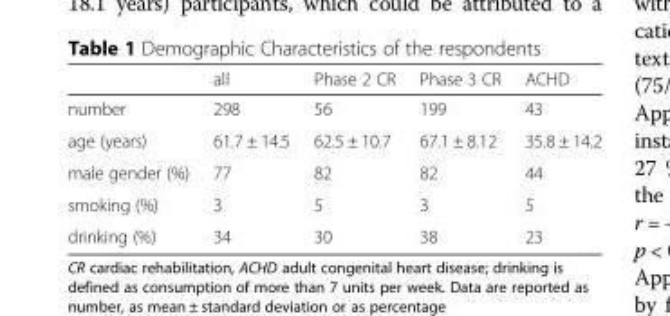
<table><thead><tr><td></td><td>all</td><td>Phase 2 CR</td><td>Phase 3 CR</td><td>ACHD</td></tr></thead><tbody><tr><td>number</td><td>298</td><td>56</td><td>199</td><td>43</td></tr><tr><td>age (years)</td><td>61.7 ± 14.5</td><td>62.5 ± 10.7</td><td>67.1 ± 8.12</td><td>35.8 ± 14.2</td></tr><tr><td>male gender (%)</td><td>77</td><td>82</td><td>82</td><td>44</td></tr><tr><td>smoking (%)</td><td>3</td><td>5</td><td>3</td><td>5</td></tr><tr><td>drinking (%)</td><td>34</td><td>30</td><td>38</td><td>23</td></tr></tbody></table>